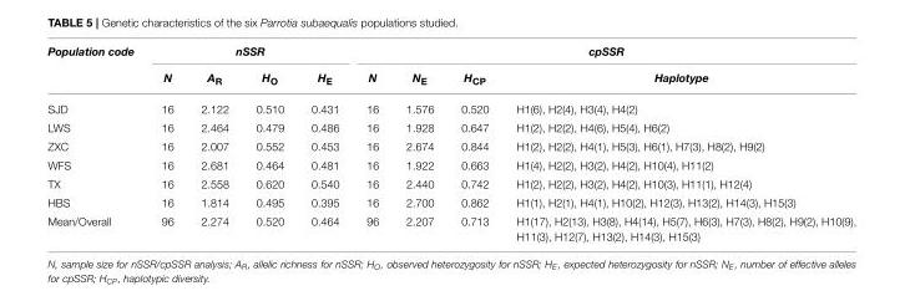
<table><thead><tr><td rowspan="2">Population code</td><td colspan="4">nSSR</td><td colspan="4">cpSSR</td></tr><tr><td>N</td><td>A<sub>R</sub></td><td>H<sub>O</sub></td><td>H<sub>E</sub></td><td>N</td><td>N<sub>E</sub></td><td>H<sub>CP</sub></td><td>Haplotype</td></tr></thead><tbody><tr><td>SJD</td><td>16</td><td>2.122</td><td>0.510</td><td>0.431</td><td>16</td><td>1.576</td><td>0.520</td><td>H1(6), H2(4), H3(4), H4(2)</td></tr><tr><td>LWS</td><td>16</td><td>2.464</td><td>0.479</td><td>0.486</td><td>16</td><td>1.928</td><td>0.647</td><td>H1(2), H2(2), H4(6), H5(4), H6(2)</td></tr><tr><td>ZXC</td><td>16</td><td>2.007</td><td>0.552</td><td>0.453</td><td>16</td><td>2.674</td><td>0.844</td><td>H1(2), H2(2), H4(1), H5(3), H6(1), H7(3), H8(2), H9(2)</td></tr><tr><td>WFS</td><td>16</td><td>2.681</td><td>0.464</td><td>0.481</td><td>16</td><td>1.922</td><td>0.663</td><td>H1(4), H2(2), H3(2), H4(2), H10(4), H11(2)</td></tr><tr><td>TX</td><td>16</td><td>2.558</td><td>0.620</td><td>0.540</td><td>16</td><td>2.440</td><td>0.742</td><td>H1(2), H2(2), H3(2), H4(2), H10(3), H11(1), H12(4)</td></tr><tr><td>HBS</td><td>16</td><td>1.814</td><td>0.495</td><td>0.395</td><td>16</td><td>2.700</td><td>0.862</td><td>H1(1), H2(1), H4(1), H10(2), H12(3), H13(2), H14(3), H15(3)</td></tr><tr><td>Mean/Overall</td><td>96</td><td>2.274</td><td>0.520</td><td>0.464</td><td>96</td><td>2.207</td><td>0.713</td><td>H1(17), H2(13), H3(8), H4(14), H5(7), H6(3), H7(3), H8(2), H9(2), H10(9), H11(3), H12(7), H13(2), H14(3), H15(3)</td></tr></tbody></table>